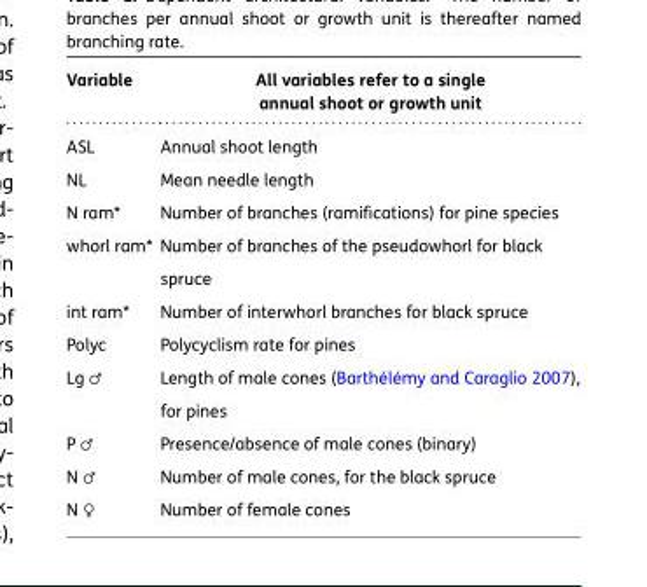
<table><thead><tr><td>Variable</td><td>All variables refer to a single annual shoot or growth unit</td></tr></thead><tbody><tr><td>ASL</td><td>Annual shoot length</td></tr><tr><td>NL</td><td>Mean needle length</td></tr><tr><td>N ram*</td><td>Number of branches (ramifications) for pine species</td></tr><tr><td>whorl ram*</td><td>Number of branches of the pseudowhorl for black spruce</td></tr><tr><td>int ram*</td><td>Number of interwhorl branches for black spruce</td></tr><tr><td>Polyc</td><td>Polycyclism rate for pines</td></tr><tr><td>Lg ♂</td><td>Length of male cones (Barthélémy and Caraglio 2007), for pines</td></tr><tr><td>P ♂</td><td>Presence/absence of male cones (binary)</td></tr><tr><td>N ♂</td><td>Number of male cones, for the black spruce</td></tr><tr><td>N ♀</td><td>Number of female cones</td></tr></tbody></table>